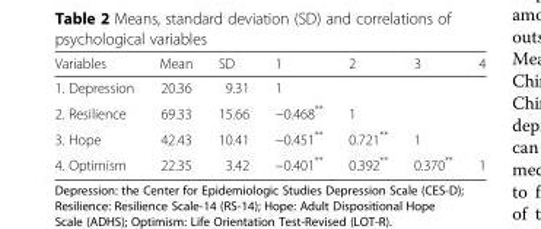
<table><thead><tr><td>Variables</td><td>Mean</td><td>SD</td><td>1</td><td>2</td><td>3</td><td>4</td></tr></thead><tbody><tr><td>1. Depression</td><td>20.36</td><td>9.31</td><td>1</td><td></td><td></td><td></td></tr><tr><td>2. Resilience</td><td>69.33</td><td>15.66</td><td>−0.468**</td><td>1</td><td></td><td></td></tr><tr><td>3. Hope</td><td>42.43</td><td>10.41</td><td>−0.451**</td><td>0.721**</td><td>1</td><td></td></tr><tr><td>4. Optimism</td><td>22.35</td><td>3.42</td><td>−0.401**</td><td>0.392**</td><td>0.370**</td><td>1</td></tr></tbody></table>